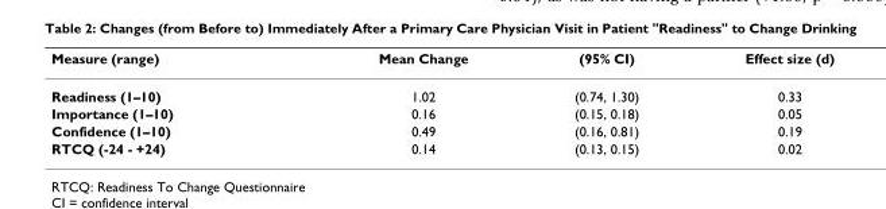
<table><thead><tr><td>Measure (range)</td><td>Mean Change</td><td>(95% CI)</td><td>Effect size (d)</td></tr></thead><tbody><tr><td>Readiness (1–10)</td><td>1.02</td><td>(0.74, 1.30)</td><td>0.33</td></tr><tr><td>Importance (1–10)</td><td>0.16</td><td>(0.15, 0.18)</td><td>0.05</td></tr><tr><td>Confidence (1–10)</td><td>0.49</td><td>(0.16, 0.81)</td><td>0.19</td></tr><tr><td>RTCQ (-24 - +24)</td><td>0.14</td><td>(0.13, 0.15)</td><td>0.02</td></tr></tbody></table>